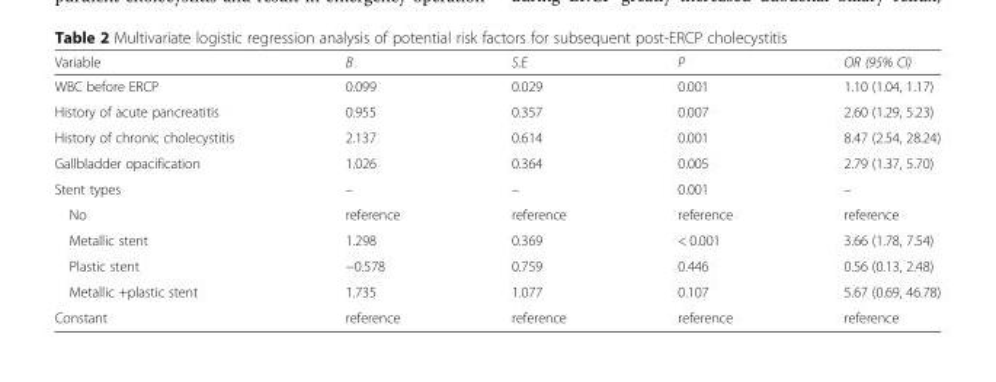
<table><thead><tr><td>Variable</td><td>B</td><td>S.E</td><td>P</td><td>OR (95% CI)</td></tr></thead><tbody><tr><td>WBC before ERCP</td><td>0.099</td><td>0.029</td><td>0.001</td><td>1.10 (1.04, 1.17)</td></tr><tr><td>History of acute pancreatitis</td><td>0.955</td><td>0.357</td><td>0.007</td><td>2.60 (1.29, 5.23)</td></tr><tr><td>History of chronic cholecystitis</td><td>2.137</td><td>0.614</td><td>0.001</td><td>8.47 (2.54, 28.24)</td></tr><tr><td>Gallbladder opacification</td><td>1.026</td><td>0.364</td><td>0.005</td><td>2.79 (1.37, 5.70)</td></tr><tr><td>Stent types</td><td>–</td><td>–</td><td>0.001</td><td>–</td></tr><tr><td>No</td><td>reference</td><td>reference</td><td>reference</td><td>reference</td></tr><tr><td>Metallic stent</td><td>1.298</td><td>0.369</td><td>&lt; 0.001</td><td>3.66 (1.78, 7.54)</td></tr><tr><td>Plastic stent</td><td>−0.578</td><td>0.759</td><td>0.446</td><td>0.56 (0.13, 2.48)</td></tr><tr><td>Metallic +plastic stent</td><td>1.735</td><td>1.077</td><td>0.107</td><td>5.67 (0.69, 46.78)</td></tr><tr><td>Constant</td><td>reference</td><td>reference</td><td>reference</td><td>reference</td></tr></tbody></table>